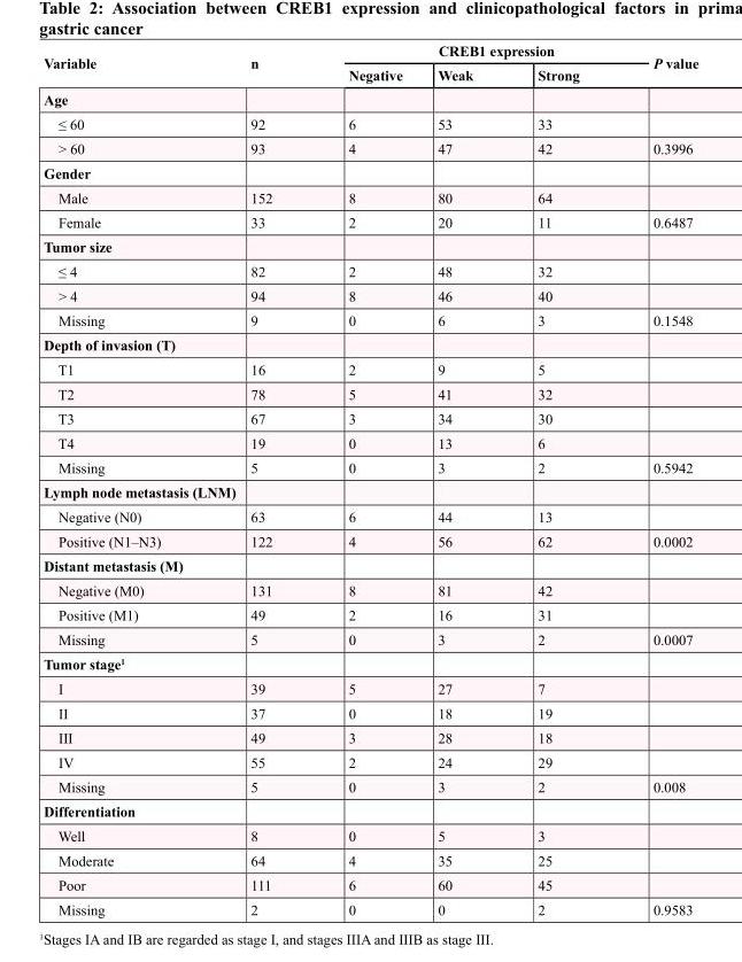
<table><thead><tr><td rowspan="2">Variable</td><td rowspan="2">n</td><td colspan="3">CREB1 expression</td><td rowspan="2">P value</td></tr><tr><td>Negative</td><td>Weak</td><td>Strong</td></tr></thead><tbody><tr><td colspan="6">Age</td></tr><tr><td>≤ 60</td><td>92</td><td>6</td><td>53</td><td>33</td><td></td></tr><tr><td>&gt; 60</td><td>93</td><td>4</td><td>47</td><td>42</td><td>0.3996</td></tr><tr><td colspan="6">Gender</td></tr><tr><td>Male</td><td>152</td><td>8</td><td>80</td><td>64</td><td></td></tr><tr><td>Female</td><td>33</td><td>2</td><td>20</td><td>11</td><td>0.6487</td></tr><tr><td colspan="6">Tumor size</td></tr><tr><td>≤ 4</td><td>82</td><td>2</td><td>48</td><td>32</td><td></td></tr><tr><td>&gt; 4</td><td>94</td><td>8</td><td>46</td><td>40</td><td></td></tr><tr><td>Missing</td><td>9</td><td>0</td><td>6</td><td>3</td><td>0.1548</td></tr><tr><td colspan="6">Depth of invasion (T)</td></tr><tr><td>T1</td><td>16</td><td>2</td><td>9</td><td>5</td><td></td></tr><tr><td>T2</td><td>78</td><td>5</td><td>41</td><td>32</td><td></td></tr><tr><td>T3</td><td>67</td><td>3</td><td>34</td><td>30</td><td></td></tr><tr><td>T4</td><td>19</td><td>0</td><td>13</td><td>6</td><td></td></tr><tr><td>Missing</td><td>5</td><td>0</td><td>3</td><td>2</td><td>0.5942</td></tr><tr><td colspan="6">Lymph node metastasis (LNM)</td></tr><tr><td>Negative (N0)</td><td>63</td><td>6</td><td>44</td><td>13</td><td></td></tr><tr><td>Positive (N1–N3)</td><td>122</td><td>4</td><td>56</td><td>62</td><td>0.0002</td></tr><tr><td colspan="6">Distant metastasis (M)</td></tr><tr><td>Negative (M0)</td><td>131</td><td>8</td><td>81</td><td>42</td><td></td></tr><tr><td>Positive (M1)</td><td>49</td><td>2</td><td>16</td><td>31</td><td></td></tr><tr><td>Missing</td><td>5</td><td>0</td><td>3</td><td>2</td><td>0.0007</td></tr><tr><td colspan="6">Tumor stage<sup>1</sup></td></tr><tr><td>I</td><td>39</td><td>5</td><td>27</td><td>7</td><td></td></tr><tr><td>II</td><td>37</td><td>0</td><td>18</td><td>19</td><td></td></tr><tr><td>III</td><td>49</td><td>3</td><td>28</td><td>18</td><td></td></tr><tr><td>IV</td><td>55</td><td>2</td><td>24</td><td>29</td><td></td></tr><tr><td>Missing</td><td>5</td><td>0</td><td>3</td><td>2</td><td>0.008</td></tr><tr><td colspan="6">Differentiation</td></tr><tr><td>Well</td><td>8</td><td>0</td><td>5</td><td>3</td><td></td></tr><tr><td>Moderate</td><td>64</td><td>4</td><td>35</td><td>25</td><td></td></tr><tr><td>Poor</td><td>111</td><td>6</td><td>60</td><td>45</td><td></td></tr><tr><td>Missing</td><td>2</td><td>0</td><td>0</td><td>2</td><td>0.9583</td></tr></tbody></table>